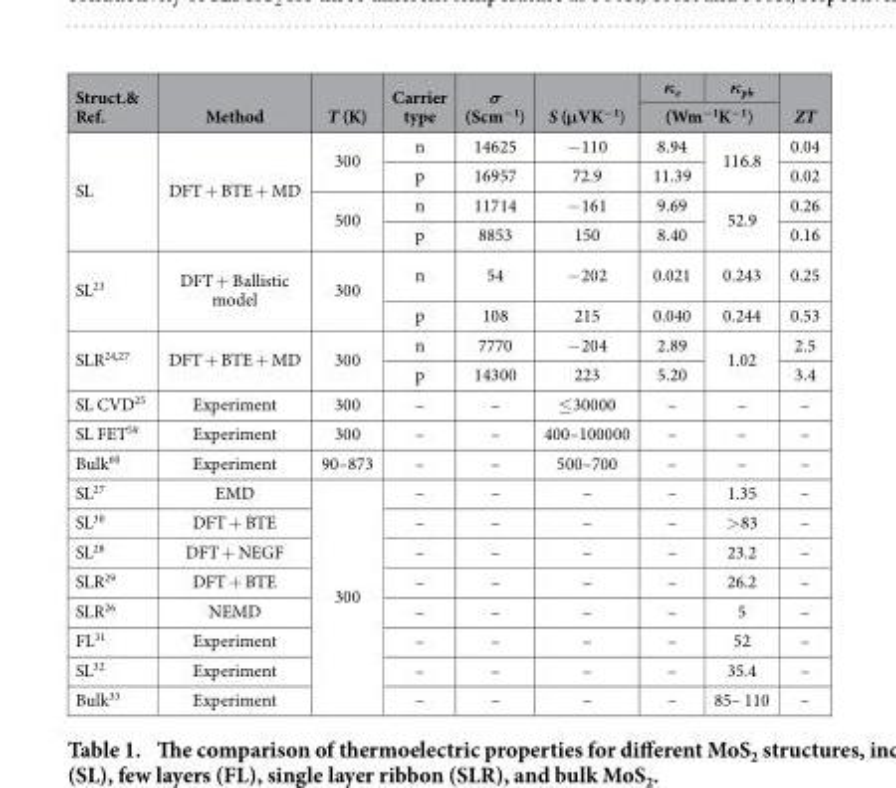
<table><thead><tr><td rowspan="2">Struct.&amp; Ref.</td><td rowspan="2">Method</td><td rowspan="2">T (K)</td><td rowspan="2">Carrier type</td><td rowspan="2">σ (Scm<sup>−1</sup>)</td><td rowspan="2">S (μVK<sup>−1</sup>)</td><td>κ<sub>e</sub></td><td>κ<sub>ph</sub></td><td rowspan="2">ZT</td></tr><tr><td colspan="2">(Wm<sup>−1</sup>K<sup>−1</sup>)</td></tr></thead><tbody><tr><td rowspan="4">SL</td><td rowspan="4">DFT + BTE + MD</td><td rowspan="2">300</td><td>n</td><td>14625</td><td>− 110</td><td>8.94</td><td rowspan="2">116.8</td><td>0.04</td></tr><tr><td>p</td><td>16957</td><td>72.9</td><td>11.39</td><td>0.02</td></tr><tr><td rowspan="2">500</td><td>n</td><td>11714</td><td>− 161</td><td>9.69</td><td rowspan="2">52.9</td><td>0.26</td></tr><tr><td>p</td><td>8853</td><td>150</td><td>8.40</td><td>0.16</td></tr><tr><td rowspan="2">SL<sup>23</sup></td><td rowspan="2">DFT + Ballistic model</td><td rowspan="2">300</td><td>n</td><td>54</td><td>− 202</td><td>0.021</td><td>0.243</td><td>0.25</td></tr><tr><td>p</td><td>108</td><td>215</td><td>0.040</td><td>0.244</td><td>0.53</td></tr><tr><td rowspan="2">SLR<sup>24</sup>,<sup>27</sup></td><td rowspan="2">DFT + BTE + MD</td><td rowspan="2">300</td><td>n</td><td>7770</td><td>− 204</td><td>2.89</td><td rowspan="2">1.02</td><td>2.5</td></tr><tr><td>p</td><td>14300</td><td>223</td><td>5.20</td><td>3.4</td></tr><tr><td>SL CVD<sup>25</sup></td><td>Experiment</td><td>300</td><td>–</td><td>–</td><td>≤ 30000</td><td>–</td><td>–</td><td>–</td></tr><tr><td>SL FET<sup>59</sup></td><td>Experiment</td><td>300</td><td>–</td><td>–</td><td>400–100000</td><td>–</td><td>–</td><td>–</td></tr><tr><td>Bulk<sup>60</sup></td><td>Experiment</td><td>90–873</td><td>–</td><td>–</td><td>500–700</td><td>–</td><td>–</td><td>–</td></tr><tr><td>SL<sup>27</sup></td><td>EMD</td><td rowspan="8">300</td><td>–</td><td>–</td><td>–</td><td>–</td><td>1.35</td><td>–</td></tr><tr><td>SL<sup>30</sup></td><td>DFT + BTE</td><td>–</td><td>–</td><td>–</td><td>–</td><td>&gt; 83</td><td>–</td></tr><tr><td>SL<sup>28</sup></td><td>DFT + NEGF</td><td>–</td><td>–</td><td>–</td><td>–</td><td>23.2</td><td>–</td></tr><tr><td>SLR<sup>29</sup></td><td>DFT + BTE</td><td>–</td><td>–</td><td>–</td><td>–</td><td>26.2</td><td>–</td></tr><tr><td>SLR<sup>26</sup></td><td>NEMD</td><td>–</td><td>–</td><td>–</td><td>–</td><td>5</td><td>–</td></tr><tr><td>FL<sup>31</sup></td><td>Experiment</td><td>–</td><td>–</td><td>–</td><td>–</td><td>52</td><td>–</td></tr><tr><td>SL<sup>32</sup></td><td>Experiment</td><td>–</td><td>–</td><td>–</td><td>–</td><td>35.4</td><td>–</td></tr><tr><td>Bulk<sup>33</sup></td><td>Experiment</td><td>–</td><td>–</td><td>–</td><td>–</td><td>85– 110</td><td>–</td></tr></tbody></table>